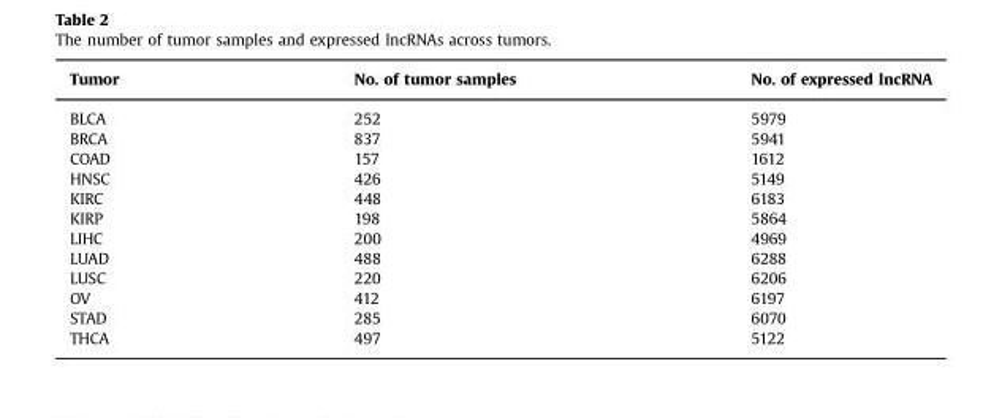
<table><thead><tr><td>Tumor</td><td>No. of tumor samples</td><td>No. of expressed lncRNA</td></tr></thead><tbody><tr><td>BLCA</td><td>252</td><td>5979</td></tr><tr><td>BRCA</td><td>837</td><td>5941</td></tr><tr><td>COAD</td><td>157</td><td>1612</td></tr><tr><td>HNSC</td><td>426</td><td>5149</td></tr><tr><td>KIRC</td><td>448</td><td>6183</td></tr><tr><td>KIRP</td><td>198</td><td>5864</td></tr><tr><td>LIHC</td><td>200</td><td>4969</td></tr><tr><td>LUAD</td><td>488</td><td>6288</td></tr><tr><td>LUSC</td><td>220</td><td>6206</td></tr><tr><td>OV</td><td>412</td><td>6197</td></tr><tr><td>STAD</td><td>285</td><td>6070</td></tr><tr><td>THCA</td><td>497</td><td>5122</td></tr></tbody></table>